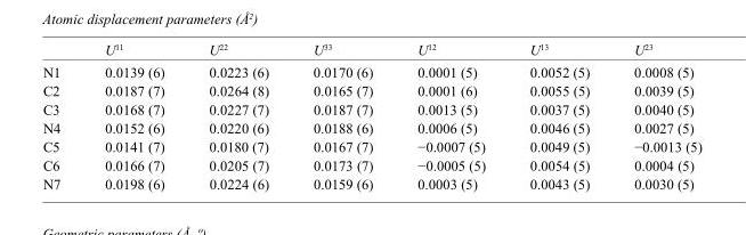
<table><thead><tr><td></td><td>U<sup>11</sup></td><td>U<sup>22</sup></td><td>U<sup>33</sup></td><td>U<sup>12</sup></td><td>U<sup>13</sup></td><td>U<sup>23</sup></td></tr></thead><tbody><tr><td>N1</td><td>0.0139 (6)</td><td>0.0223 (6)</td><td>0.0170 (6)</td><td>0.0001 (5)</td><td>0.0052 (5)</td><td>0.0008 (5)</td></tr><tr><td>C2</td><td>0.0187 (7)</td><td>0.0264 (8)</td><td>0.0165 (7)</td><td>0.0001 (6)</td><td>0.0055 (5)</td><td>0.0039 (5)</td></tr><tr><td>C3</td><td>0.0168 (7)</td><td>0.0227 (7)</td><td>0.0187 (7)</td><td>0.0013 (5)</td><td>0.0037 (5)</td><td>0.0040 (5)</td></tr><tr><td>N4</td><td>0.0152 (6)</td><td>0.0220 (6)</td><td>0.0188 (6)</td><td>0.0006 (5)</td><td>0.0046 (5)</td><td>0.0027 (5)</td></tr><tr><td>C5</td><td>0.0141 (7)</td><td>0.0180 (7)</td><td>0.0167 (7)</td><td>−0.0007 (5)</td><td>0.0049 (5)</td><td>−0.0013 (5)</td></tr><tr><td>C6</td><td>0.0166 (7)</td><td>0.0205 (7)</td><td>0.0173 (7)</td><td>−0.0005 (5)</td><td>0.0054 (5)</td><td>0.0004 (5)</td></tr><tr><td>N7</td><td>0.0198 (6)</td><td>0.0224 (6)</td><td>0.0159 (6)</td><td>0.0003 (5)</td><td>0.0043 (5)</td><td>0.0030 (5)</td></tr></tbody></table>